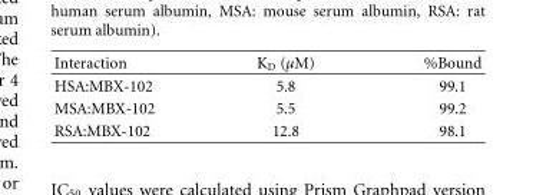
<table><thead><tr><td>Interaction</td><td>K<sub>D</sub> (μM)</td><td>%Bound</td></tr></thead><tbody><tr><td>HSA:MBX-102</td><td>5.8</td><td>99.1</td></tr><tr><td>MSA:MBX-102</td><td>5.5</td><td>99.2</td></tr><tr><td>RSA:MBX-102</td><td>12.8</td><td>98.1</td></tr></tbody></table>